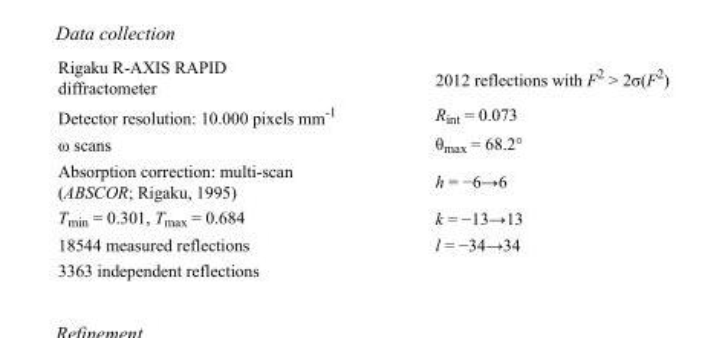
<table><tbody><tr><td>Rigaku R-AXIS RAPID diffractometer</td><td>2012 reflections with F<sup>2</sup> &gt; 2σ(F<sup>2</sup>)</td></tr><tr><td>Detector resolution: 10.000 pixels mm<sup>-1</sup></td><td>R<sub>int</sub> = 0.073</td></tr><tr><td>ω scans</td><td>θ<sub>max</sub> = 68.2°</td></tr><tr><td>Absorption correction: multi-scan (ABSCOR; Rigaku, 1995)</td><td>h = −6→6</td></tr><tr><td>T<sub>min</sub> = 0.301, T<sub>max</sub> = 0.684</td><td>k = −13→13</td></tr><tr><td>18544 measured reflections</td><td>l = −34→34</td></tr><tr><td>3363 independent reflections</td><td></td></tr></tbody></table>